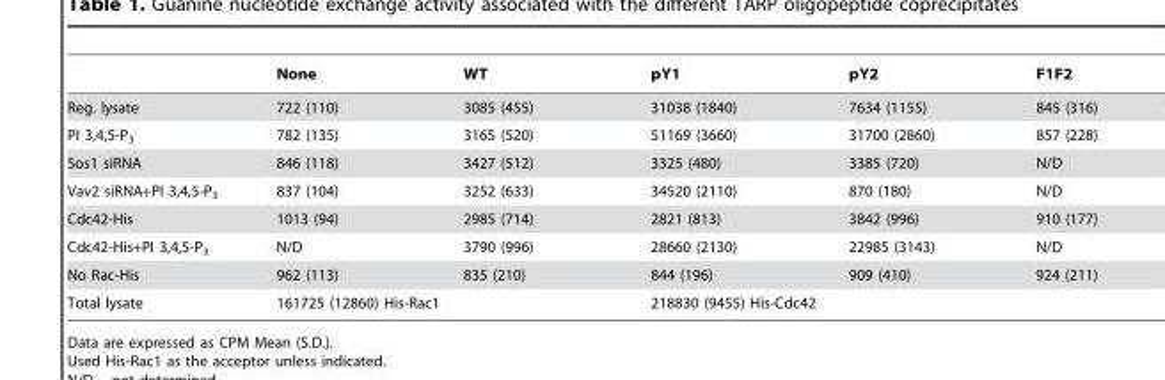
<table><thead><tr><td></td><td>None</td><td>WT</td><td>pY1</td><td>pY2</td><td>F1F2</td></tr></thead><tbody><tr><td>Reg. lysate</td><td>722 (110)</td><td>3085 (455)</td><td>31038 (1840)</td><td>7634 (1155)</td><td>845 (316)</td></tr><tr><td>PI 3,4,5-P<sub>3</sub></td><td>782 (135)</td><td>3165 (520)</td><td>51169 (3660)</td><td>31700 (2860)</td><td>857 (228)</td></tr><tr><td>Sos1 siRNA</td><td>846 (118)</td><td>3427 (512)</td><td>3325 (480)</td><td>3385 (720)</td><td>N/D</td></tr><tr><td>Vav2 siRNA+PI 3,4,5-P<sub>3</sub></td><td>837 (104)</td><td>3252 (633)</td><td>34520 (2110)</td><td>870 (180)</td><td>N/D</td></tr><tr><td>Cdc42-His</td><td>1013 (94)</td><td>2985 (714)</td><td>2821 (813)</td><td>3842 (996)</td><td>910 (177)</td></tr><tr><td>Cdc42-His+PI 3,4,5-P<sub>3</sub></td><td>N/D</td><td>3790 (996)</td><td>28660 (2130)</td><td>22985 (3143)</td><td>N/D</td></tr><tr><td>No Rac-His</td><td>962 (113)</td><td>835 (210)</td><td>844 (196)</td><td>909 (410)</td><td>924 (211)</td></tr><tr><td>Total lysate</td><td colspan="2">161725 (12860) His-Rac1</td><td colspan="2">218830 (9455) His-Cdc42</td><td></td></tr></tbody></table>